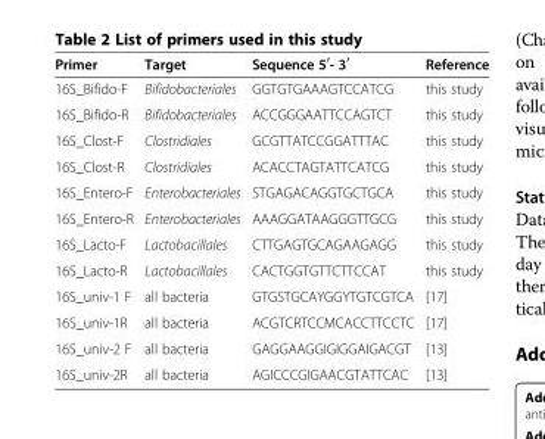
<table><thead><tr><td>Primer</td><td>Target</td><td>Sequence 5<sup>′</sup>- 3<sup>′</sup></td><td>Reference</td></tr></thead><tbody><tr><td>16S_Bifido-F</td><td>Bifidobacteriales</td><td>GGTGTGAAAGTCCATCG</td><td>this study</td></tr><tr><td>16S_Bifido-R</td><td>Bifidobacteriales</td><td>ACCGGGAATTCCAGTCT</td><td>this study</td></tr><tr><td>16S_Clost-F</td><td>Clostridiales</td><td>GCGTTATCCGGATTTAC</td><td>this study</td></tr><tr><td>16S_Clost-R</td><td>Clostridiales</td><td>ACACCTAGTATTCATCG</td><td>this study</td></tr><tr><td>16S_Entero-F</td><td>Enterobacteriales</td><td>STGAGACAGGTGCTGCA</td><td>this study</td></tr><tr><td>16S_Entero-R</td><td>Enterobacteriales</td><td>AAAGGATAAGGGTTGCG</td><td>this study</td></tr><tr><td>16S_Lacto-F</td><td>Lactobacillales</td><td>CTTGAGTGCAGAAGAGG</td><td>this study</td></tr><tr><td>16S_Lacto-R</td><td>Lactobacillales</td><td>CACTGGTGTTCTTCCAT</td><td>this study</td></tr><tr><td>16S_univ-1 F</td><td>all bacteria</td><td>GTGSTGCAYGGYTGTCGTCA</td><td>[17]</td></tr><tr><td>16S_univ-1R</td><td>all bacteria</td><td>ACGTCRTCCMCACCTTCCTC</td><td>[17]</td></tr><tr><td>16S_univ-2 F</td><td>all bacteria</td><td>GAGGAAGGIGIGGAIGACGT</td><td>[13]</td></tr><tr><td>16S_univ-2R</td><td>all bacteria</td><td>AGICCCGIGAACGTATTCAC</td><td>[13]</td></tr></tbody></table>